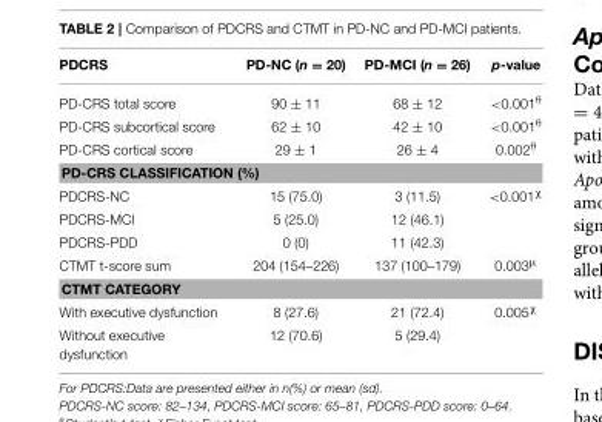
<table><thead><tr><td>PDCRS</td><td>PD-NC (n = 20)</td><td>PD-MCI (n = 26)</td><td>p-value</td></tr></thead><tbody><tr><td>PD-CRS total score</td><td>90 ± 11</td><td>68 ± 12</td><td>&lt;0.001<sup>θ</sup></td></tr><tr><td>PD-CRS subcortical score</td><td>62 ± 10</td><td>42 ± 10</td><td>&lt;0.001<sup>θ</sup></td></tr><tr><td>PD-CRS cortical score</td><td>29 ± 1</td><td>26 ± 4</td><td>0.002<sup>θ</sup></td></tr><tr><td colspan="4">PD-CRS CLASSIFICATION (%)</td></tr><tr><td>PDCRS-NC</td><td>15 (75.0)</td><td>3 (11.5)</td><td>&lt;0.001<sup>χ</sup></td></tr><tr><td>PDCRS-MCI</td><td>5 (25.0)</td><td>12 (46.1)</td><td></td></tr><tr><td>PDCRS-PDD</td><td>0 (0)</td><td>11 (42.3)</td><td></td></tr><tr><td>CTMT t-score sum</td><td>204 (154–226)</td><td>137 (100–179)</td><td>0.003<sup>µ</sup></td></tr><tr><td colspan="4">CTMT CATEGORY</td></tr><tr><td>With executive dysfunction</td><td>8 (27.6)</td><td>21 (72.4)</td><td>0.005<sup>χ</sup></td></tr><tr><td>Without executive dysfunction</td><td>12 (70.6)</td><td>5 (29.4)</td><td></td></tr></tbody></table>